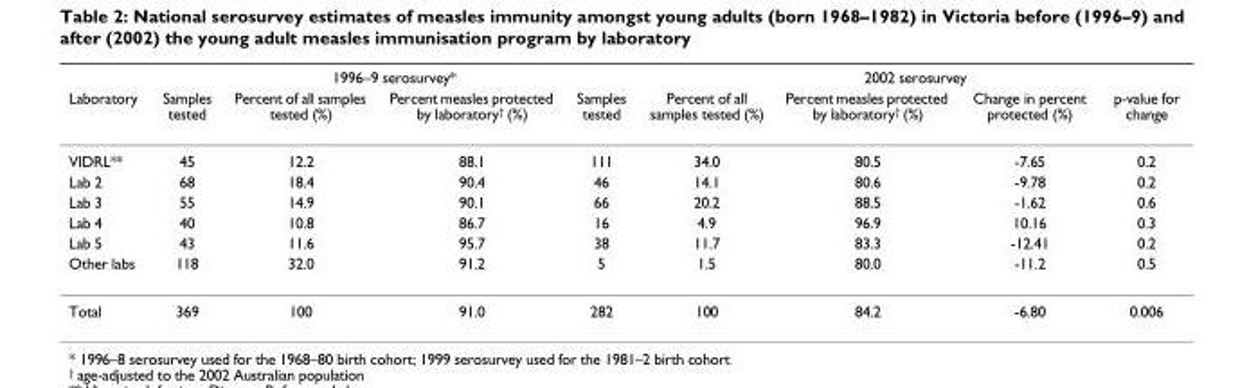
<table><thead><tr><td rowspan="2">Laboratory</td><td colspan="4">1996–9 serosurvey*</td><td colspan="4">2002 serosurvey</td></tr><tr><td>Samples tested</td><td>Percent of all samples tested (%)</td><td>Percent measles protected by laboratory<sup>†</sup> (%)</td><td>Samples tested</td><td>Percent of all samples tested (%)</td><td>Percent measles protected by laboratory<sup>†</sup> (%)</td><td>Change in percent protected (%)</td><td>p-value for change</td></tr></thead><tbody><tr><td>VIDRL**</td><td>45</td><td>12.2</td><td>88.1</td><td>111</td><td>34.0</td><td>80.5</td><td>-7.65</td><td>0.2</td></tr><tr><td>Lab 2</td><td>68</td><td>18.4</td><td>90.4</td><td>46</td><td>14.1</td><td>80.6</td><td>-9.78</td><td>0.2</td></tr><tr><td>Lab 3</td><td>55</td><td>14.9</td><td>90.1</td><td>66</td><td>20.2</td><td>88.5</td><td>-1.62</td><td>0.6</td></tr><tr><td>Lab 4</td><td>40</td><td>10.8</td><td>86.7</td><td>16</td><td>4.9</td><td>96.9</td><td>10.16</td><td>0.3</td></tr><tr><td>Lab 5</td><td>43</td><td>11.6</td><td>95.7</td><td>38</td><td>11.7</td><td>83.3</td><td>-12.41</td><td>0.2</td></tr><tr><td>Other labs</td><td>118</td><td>32.0</td><td>91.2</td><td>5</td><td>1.5</td><td>80.0</td><td>-11.2</td><td>0.5</td></tr><tr><td>Total</td><td>369</td><td>100</td><td>91.0</td><td>282</td><td>100</td><td>84.2</td><td>-6.80</td><td>0.006</td></tr></tbody></table>